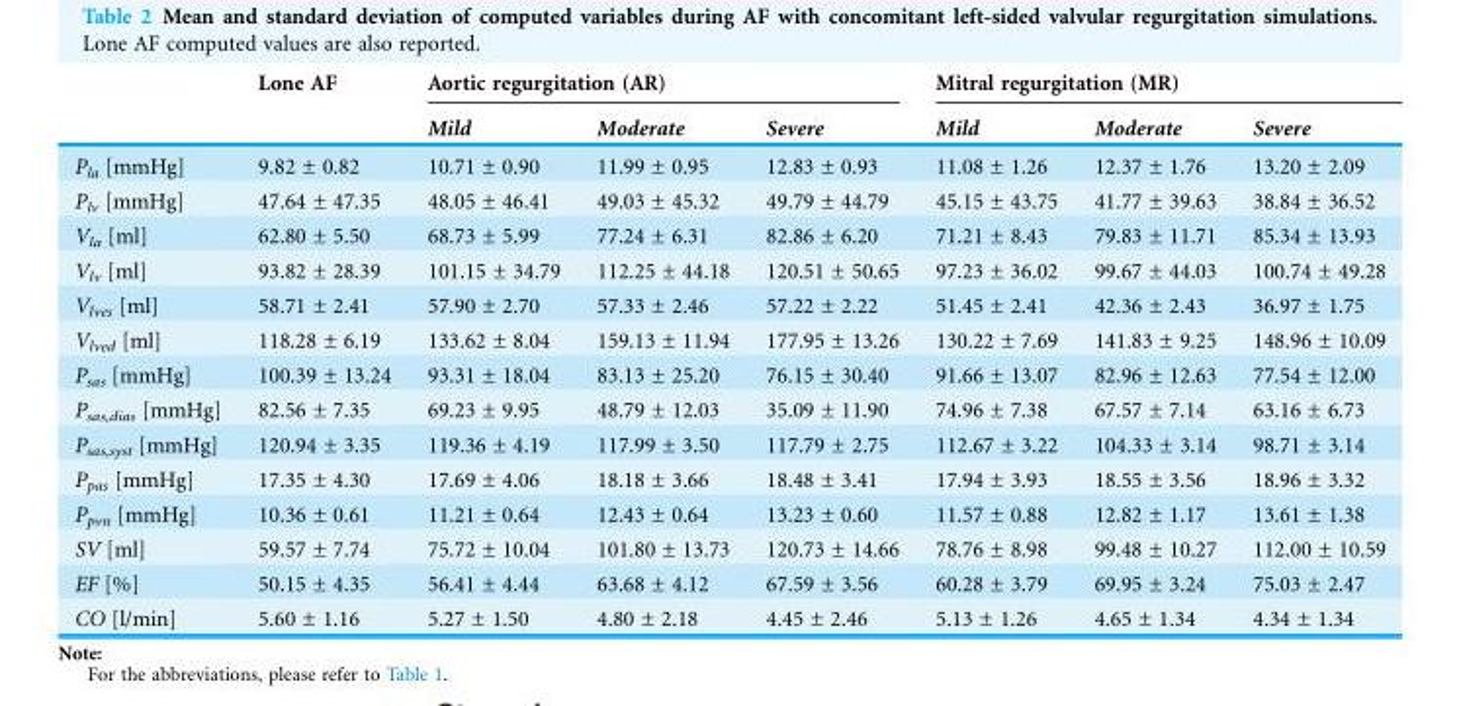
<table><thead><tr><td rowspan="2"></td><td rowspan="2">Lone AF</td><td colspan="3">Aortic regurgitation (AR)</td><td colspan="3">Mitral regurgitation (MR)</td></tr><tr><td>Mild</td><td>Moderate</td><td>Severe</td><td>Mild</td><td>Moderate</td><td>Severe</td></tr></thead><tbody><tr><td>P<sub>la</sub> [mmHg]</td><td>9.82 ± 0.82</td><td>10.71 ± 0.90</td><td>11.99 ± 0.95</td><td>12.83 ± 0.93</td><td>11.08 ± 1.26</td><td>12.37 ± 1.76</td><td>13.20 ± 2.09</td></tr><tr><td>P<sub>lv</sub> [mmHg]</td><td>47.64 ± 47.35</td><td>48.05 ± 46.41</td><td>49.03 ± 45.32</td><td>49.79 ± 44.79</td><td>45.15 ± 43.75</td><td>41.77 ± 39.63</td><td>38.84 ± 36.52</td></tr><tr><td>V<sub>la</sub> [ml]</td><td>62.80 ± 5.50</td><td>68.73 ± 5.99</td><td>77.24 ± 6.31</td><td>82.86 ± 6.20</td><td>71.21 ± 8.43</td><td>79.83 ± 11.71</td><td>85.34 ± 13.93</td></tr><tr><td>V<sub>lv</sub> [ml]</td><td>93.82 ± 28.39</td><td>101.15 ± 34.79</td><td>112.25 ± 44.18</td><td>120.51 ± 50.65</td><td>97.23 ± 36.02</td><td>99.67 ± 44.03</td><td>100.74 ± 49.28</td></tr><tr><td>V<sub>lves</sub> [ml]</td><td>58.71 ± 2.41</td><td>57.90 ± 2.70</td><td>57.33 ± 2.46</td><td>57.22 ± 2.22</td><td>51.45 ± 2.41</td><td>42.36 ± 2.43</td><td>36.97 ± 1.75</td></tr><tr><td>V<sub>lved</sub> [ml]</td><td>118.28 ± 6.19</td><td>133.62 ± 8.04</td><td>159.13 ± 11.94</td><td>177.95 ± 13.26</td><td>130.22 ± 7.69</td><td>141.83 ± 9.25</td><td>148.96 ± 10.09</td></tr><tr><td>P<sub>sas</sub> [mmHg]</td><td>100.39 ± 13.24</td><td>93.31 ± 18.04</td><td>83.13 ± 25.20</td><td>76.15 ± 30.40</td><td>91.66 ± 13.07</td><td>82.96 ± 12.63</td><td>77.54 ± 12.00</td></tr><tr><td>P<sub>sas,dias</sub> [mmHg]</td><td>82.56 ± 7.35</td><td>69.23 ± 9.95</td><td>48.79 ± 12.03</td><td>35.09 ± 11.90</td><td>74.96 ± 7.38</td><td>67.57 ± 7.14</td><td>63.16 ± 6.73</td></tr><tr><td>P<sub>sas,syst</sub> [mmHg]</td><td>120.94 ± 3.35</td><td>119.36 ± 4.19</td><td>117.99 ± 3.50</td><td>117.79 ± 2.75</td><td>112.67 ± 3.22</td><td>104.33 ± 3.14</td><td>98.71 ± 3.14</td></tr><tr><td>P<sub>pas</sub> [mmHg]</td><td>17.35 ± 4.30</td><td>17.69 ± 4.06</td><td>18.18 ± 3.66</td><td>18.48 ± 3.41</td><td>17.94 ± 3.93</td><td>18.55 ± 3.56</td><td>18.96 ± 3.32</td></tr><tr><td>P<sub>pvn</sub> [mmHg]</td><td>10.36 ± 0.61</td><td>11.21 ± 0.64</td><td>12.43 ± 0.64</td><td>13.23 ± 0.60</td><td>11.57 ± 0.88</td><td>12.82 ± 1.17</td><td>13.61 ± 1.38</td></tr><tr><td>SV [ml]</td><td>59.57 ± 7.74</td><td>75.72 ± 10.04</td><td>101.80 ± 13.73</td><td>120.73 ± 14.66</td><td>78.76 ± 8.98</td><td>99.48 ± 10.27</td><td>112.00 ± 10.59</td></tr><tr><td>EF [%]</td><td>50.15 ± 4.35</td><td>56.41 ± 4.44</td><td>63.68 ± 4.12</td><td>67.59 ± 3.56</td><td>60.28 ± 3.79</td><td>69.95 ± 3.24</td><td>75.03 ± 2.47</td></tr><tr><td>CO [l/min]</td><td>5.60 ± 1.16</td><td>5.27 ± 1.50</td><td>4.80 ± 2.18</td><td>4.45 ± 2.46</td><td>5.13 ± 1.26</td><td>4.65 ± 1.34</td><td>4.34 ± 1.34</td></tr></tbody></table>